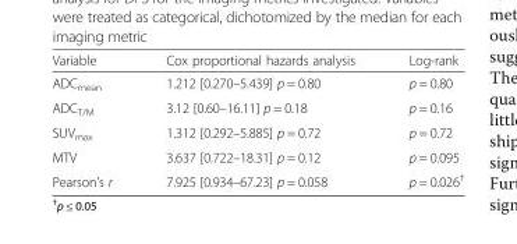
<table><thead><tr><td>Variable</td><td>Cox proportional hazards analysis</td><td>Log-rank</td></tr></thead><tbody><tr><td>ADC<sub>mean</sub></td><td>1.212 [0.270–5.439] p = 0.80</td><td>p = 0.80</td></tr><tr><td>ADC<sub>T/M</sub></td><td>3.12 [0.60–16.11] p = 0.18</td><td>p = 0.16</td></tr><tr><td>SUV<sub>max</sub></td><td>1.312 [0.292–5.885] p = 0.72</td><td>p = 0.72</td></tr><tr><td>MTV</td><td>3.637 [0.722–18.31] p = 0.12</td><td>p = 0.095</td></tr><tr><td>Pearson’s r</td><td>7.925 [0.934–67.23] p = 0.058</td><td>p = 0.026<sup>†</sup></td></tr></tbody></table>